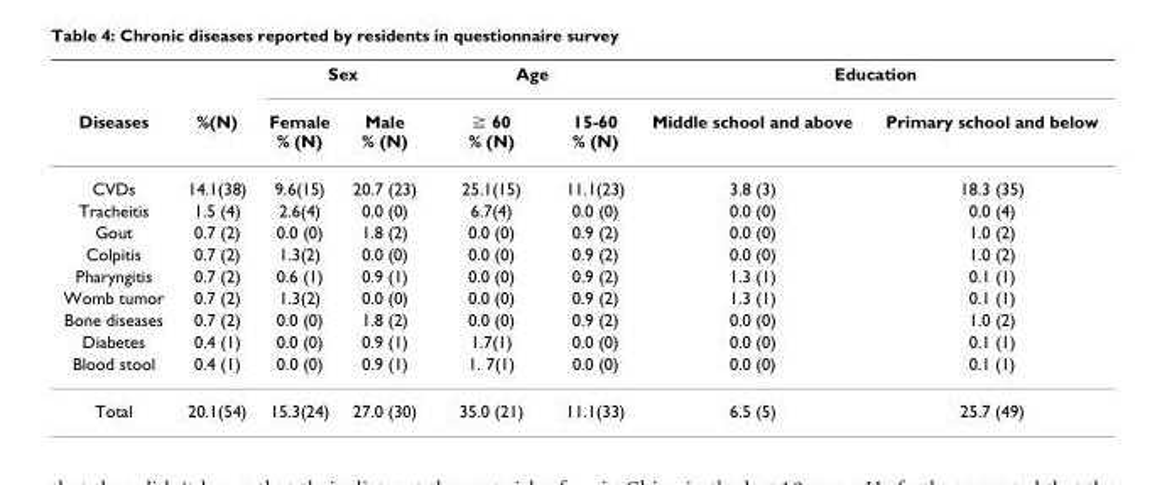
<table><thead><tr><td rowspan="2">Diseases</td><td rowspan="2">%(N)</td><td colspan="2">Sex</td><td colspan="2">Age</td><td colspan="2">Education</td></tr><tr><td>Female % (N)</td><td>Male % (N)</td><td>≧ 60 % (N)</td><td>15-60 % (N)</td><td>Middle school and above</td><td>Primary school and below</td></tr></thead><tbody><tr><td>CVDs</td><td>14.1(38)</td><td>9.6(15)</td><td>20.7 (23)</td><td>25.1(15)</td><td>11.1(23)</td><td>3.8 (3)</td><td>18.3 (35)</td></tr><tr><td>Tracheitis</td><td>1.5 (4)</td><td>2.6(4)</td><td>0.0 (0)</td><td>6.7(4)</td><td>0.0 (0)</td><td>0.0 (0)</td><td>0.0 (4)</td></tr><tr><td>Gout</td><td>0.7 (2)</td><td>0.0 (0)</td><td>1.8 (2)</td><td>0.0 (0)</td><td>0.9 (2)</td><td>0.0 (0)</td><td>1.0 (2)</td></tr><tr><td>Colpitis</td><td>0.7 (2)</td><td>1.3(2)</td><td>0.0 (0)</td><td>0.0 (0)</td><td>0.9 (2)</td><td>0.0 (0)</td><td>1.0 (2)</td></tr><tr><td>Pharyngitis</td><td>0.7 (2)</td><td>0.6 (1)</td><td>0.9 (1)</td><td>0.0 (0)</td><td>0.9 (2)</td><td>1.3 (1)</td><td>0.1 (1)</td></tr><tr><td>Womb tumor</td><td>0.7 (2)</td><td>1.3(2)</td><td>0.0 (0)</td><td>0.0 (0)</td><td>0.9 (2)</td><td>1.3 (1)</td><td>0.1 (1)</td></tr><tr><td>Bone diseases</td><td>0.7 (2)</td><td>0.0 (0)</td><td>1.8 (2)</td><td>0.0 (0)</td><td>0.9 (2)</td><td>0.0 (0)</td><td>1.0 (2)</td></tr><tr><td>Diabetes</td><td>0.4 (1)</td><td>0.0 (0)</td><td>0.9 (1)</td><td>1.7(1)</td><td>0.0 (0)</td><td>0.0 (0)</td><td>0.1 (1)</td></tr><tr><td>Blood stool</td><td>0.4 (1)</td><td>0.0 (0)</td><td>0.9 (1)</td><td>1. 7(1)</td><td>0.0 (0)</td><td>0.0 (0)</td><td>0.1 (1)</td></tr><tr><td>Total</td><td>20.1(54)</td><td>15.3(24)</td><td>27.0 (30)</td><td>35.0 (21)</td><td>11.1(33)</td><td>6.5 (5)</td><td>25.7 (49)</td></tr></tbody></table>